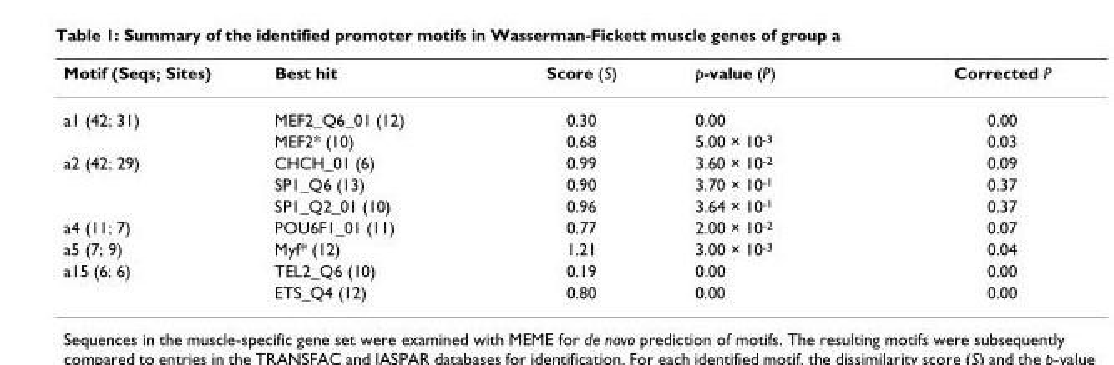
<table><thead><tr><td>Motif (Seqs; Sites)</td><td>Best hit</td><td>Score (S)</td><td>p-value (P)</td><td>Corrected P</td></tr></thead><tbody><tr><td rowspan="2">a1 (42; 31)</td><td>MEF2_Q6_01 (12)</td><td>0.30</td><td>0.00</td><td>0.00</td></tr><tr><td>MEF2* (10)</td><td>0.68</td><td>5.00 × 10<sup>-3</sup></td><td>0.03</td></tr><tr><td rowspan="3">a2 (42; 29)</td><td>CHCH_01 (6)</td><td>0.99</td><td>3.60 × 10<sup>-2</sup></td><td>0.09</td></tr><tr><td>SP1_Q6 (13)</td><td>0.90</td><td>3.70 × 10<sup>-1</sup></td><td>0.37</td></tr><tr><td>SP1_Q2_01 (10)</td><td>0.96</td><td>3.64 × 10<sup>-1</sup></td><td>0.37</td></tr><tr><td>a4 (11; 7)</td><td>POU6F1_01 (11)</td><td>0.77</td><td>2.00 × 10<sup>-2</sup></td><td>0.07</td></tr><tr><td>a5 (7; 9)</td><td>Myf* (12)</td><td>1.21</td><td>3.00 × 10<sup>-3</sup></td><td>0.04</td></tr><tr><td rowspan="2">a15 (6; 6)</td><td>TEL2_Q6 (10)</td><td>0.19</td><td>0.00</td><td>0.00</td></tr><tr><td>ETS_Q4 (12)</td><td>0.80</td><td>0.00</td><td>0.00</td></tr></tbody></table>